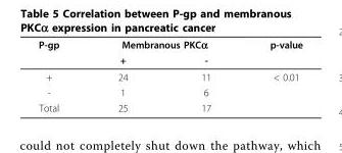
<table><thead><tr><td rowspan="2">P-gp</td><td colspan="2">Membranous PKCα</td><td rowspan="2">p-value</td></tr><tr><td>+</td><td>-</td></tr></thead><tbody><tr><td>+</td><td>24</td><td>11</td><td>&lt; 0.01</td></tr><tr><td>-</td><td>1</td><td>6</td><td></td></tr><tr><td>Total</td><td>25</td><td>17</td><td></td></tr></tbody></table>